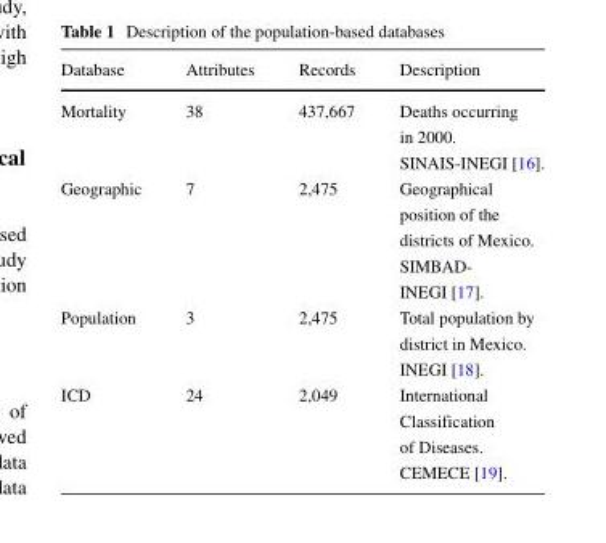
<table><thead><tr><td>Database</td><td>Attributes</td><td>Records</td><td>Description</td></tr></thead><tbody><tr><td rowspan="3">Mortality</td><td>38</td><td>437,667</td><td>Deaths occurring</td></tr><tr><td></td><td></td><td>in 2000.</td></tr><tr><td></td><td></td><td>SINAIS-INEGI [16].</td></tr><tr><td rowspan="5">Geographic</td><td>7</td><td>2,475</td><td>Geographical</td></tr><tr><td></td><td></td><td>position of the</td></tr><tr><td></td><td></td><td>districts of Mexico.</td></tr><tr><td></td><td></td><td>SIMBAD-</td></tr><tr><td></td><td></td><td>INEGI [17].</td></tr><tr><td rowspan="3">Population</td><td>3</td><td>2,475</td><td>Total population by</td></tr><tr><td></td><td></td><td>district in Mexico.</td></tr><tr><td></td><td></td><td>INEGI [18].</td></tr><tr><td rowspan="4">ICD</td><td>24</td><td>2,049</td><td>International</td></tr><tr><td></td><td></td><td>Classification</td></tr><tr><td></td><td></td><td>of Diseases.</td></tr><tr><td></td><td></td><td>CEMECE [19].</td></tr></tbody></table>